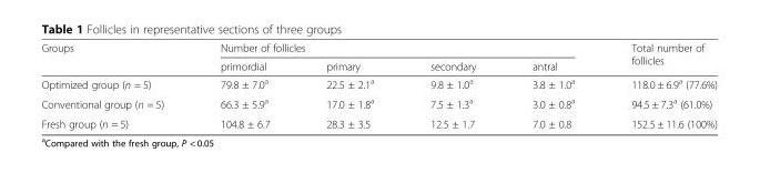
<table><thead><tr><td rowspan="2">Groups</td><td colspan="4">Number of follicles</td><td rowspan="2">Total number of follicles</td></tr><tr><td>primordial</td><td>primary</td><td>secondary</td><td>antral</td></tr></thead><tbody><tr><td>Optimized group (n = 5)</td><td>79.8 ± 7.0<sup>a</sup></td><td>22.5 ± 2.1<sup>a</sup></td><td>9.8 ± 1.0<sup>a</sup></td><td>3.8 ± 1.0<sup>a</sup></td><td>118.0 ± 6.9<sup>a</sup> (77.6%)</td></tr><tr><td>Conventional group (n = 5)</td><td>66.3 ± 5.9<sup>a</sup></td><td>17.0 ± 1.8<sup>a</sup></td><td>7.5 ± 1.3<sup>a</sup></td><td>3.0 ± 0.8<sup>a</sup></td><td>94.5 ± 7.3<sup>a</sup> (61.0%)</td></tr><tr><td>Fresh group (n = 5)</td><td>104.8 ± 6.7</td><td>28.3 ± 3.5</td><td>12.5 ± 1.7</td><td>7.0 ± 0.8</td><td>152.5 ± 11.6 (100%)</td></tr></tbody></table>